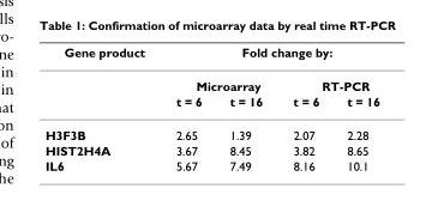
<table><thead><tr><td rowspan="3">Gene product</td><td colspan="4">Fold change by:</td></tr><tr><td colspan="2">Microarray</td><td colspan="2">RT-PCR</td></tr><tr><td>t = 6</td><td>t = 16</td><td>t = 6</td><td>t = 16</td></tr></thead><tbody><tr><td>H3F3B</td><td>2.65</td><td>1.39</td><td>2.07</td><td>2.28</td></tr><tr><td>HIST2H4A</td><td>3.67</td><td>8.45</td><td>3.82</td><td>8.65</td></tr><tr><td>IL6</td><td>5.67</td><td>7.49</td><td>8.16</td><td>10.1</td></tr></tbody></table>